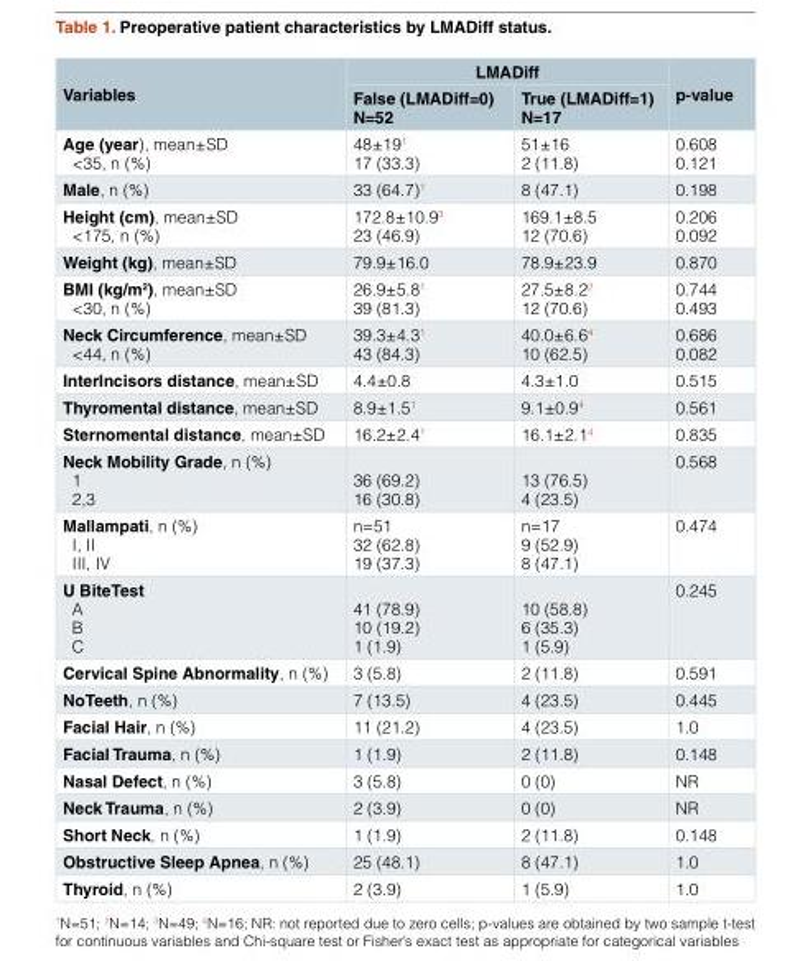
<table><thead><tr><td rowspan="2">Variables</td><td colspan="2">LMADiff</td><td rowspan="2">p-value</td></tr><tr><td>False (LMADiff=0) N=52</td><td>True (LMADiff=1) N=17</td></tr></thead><tbody><tr><td>Age (year), mean±SD &lt;35, n (%)</td><td>48±19<sup>1</sup> 17 (33.3)</td><td>51±16 2 (11.8)</td><td>0.608 0.121</td></tr><tr><td>Male, n (%)</td><td>33 (64.7)<sup>1</sup></td><td>8 (47.1)</td><td>0.198</td></tr><tr><td>Height (cm), mean±SD &lt;175, n (%)</td><td>172.8±10.9<sup>3</sup> 23 (46.9)</td><td>169.1±8.5 12 (70.6)</td><td>0.206 0.092</td></tr><tr><td>Weight (kg), mean±SD</td><td>79.9±16.0</td><td>78.9±23.9</td><td>0.870</td></tr><tr><td>BMI (kg/m<sup>2</sup>), mean±SD &lt;30, n (%)</td><td>26.9±5.8<sup>1</sup> 39 (81.3)</td><td>27.5±8.2<sup>2</sup> 12 (70.6)</td><td>0.744 0.493</td></tr><tr><td>Neck Circumference, mean±SD &lt;44, n (%)</td><td>39.3±4.3<sup>1</sup> 43 (84.3)</td><td>40.0±6.6<sup>4</sup> 10 (62.5)</td><td>0.686 0.082</td></tr><tr><td>InterIncisors distance, mean±SD</td><td>4.4±0.8</td><td>4.3±1.0</td><td>0.515</td></tr><tr><td>Thyromental distance, mean±SD</td><td>8.9±1.5<sup>1</sup></td><td>9.1±0.9<sup>4</sup></td><td>0.561</td></tr><tr><td>Sternomental distance, mean±SD</td><td>16.2±2.4<sup>1</sup></td><td>16.1±2.1<sup>4</sup></td><td>0.835</td></tr><tr><td>Neck Mobility Grade, n (%) 1 2,3</td><td>36 (69.2) 16 (30.8)</td><td>13 (76.5) 4 (23.5)</td><td>0.568</td></tr><tr><td>Mallampati, n (%) I, II III, IV</td><td>n=51 32 (62.8) 19 (37.3)</td><td>n=17 9 (52.9) 8 (47.1)</td><td>0.474</td></tr><tr><td>U BiteTest A B C</td><td>41 (78.9) 10 (19.2) 1 (1.9)</td><td>10 (58.8) 6 (35.3) 1 (5.9)</td><td>0.245</td></tr><tr><td>Cervical Spine Abnormality, n (%)</td><td>3 (5.8)</td><td>2 (11.8)</td><td>0.591</td></tr><tr><td>NoTeeth, n (%)</td><td>7 (13.5)</td><td>4 (23.5)</td><td>0.445</td></tr><tr><td>Facial Hair, n (%)</td><td>11 (21.2)</td><td>4 (23.5)</td><td>1.0</td></tr><tr><td>Facial Trauma, n (%)</td><td>1 (1.9)</td><td>2 (11.8)</td><td>0.148</td></tr><tr><td>Nasal Defect, n (%)</td><td>3 (5.8)</td><td>0 (0)</td><td>NR</td></tr><tr><td>Neck Trauma, n (%)</td><td>2 (3.9)</td><td>0 (0)</td><td>NR</td></tr><tr><td>Short Neck, n (%)</td><td>1 (1.9)</td><td>2 (11.8)</td><td>0.148</td></tr><tr><td>Obstructive Sleep Apnea, n (%)</td><td>25 (48.1)</td><td>8 (47.1)</td><td>1.0</td></tr><tr><td>Thyroid, n (%)</td><td>2 (3.9)</td><td>1 (5.9)</td><td>1.0</td></tr></tbody></table>